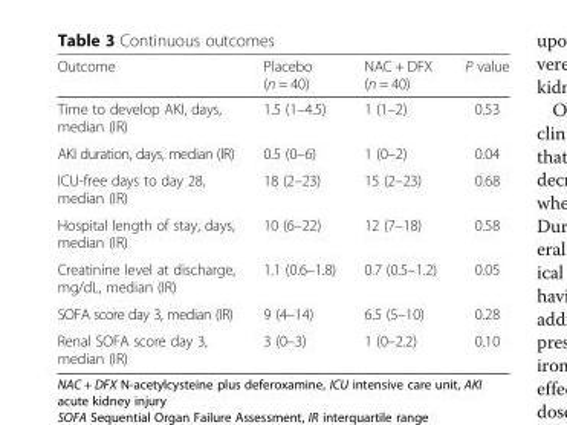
<table><thead><tr><td>Outcome</td><td>Placebo (n = 40)</td><td>NAC + DFX (n = 40)</td><td>P value</td></tr></thead><tbody><tr><td>Time to develop AKI, days, median (IR)</td><td>1.5 (1–4.5)</td><td>1 (1–2)</td><td>0.53</td></tr><tr><td>AKI duration, days, median (IR)</td><td>0.5 (0–6)</td><td>1 (0–2)</td><td>0.04</td></tr><tr><td>ICU-free days to day 28, median (IR)</td><td>18 (2–23)</td><td>15 (2–23)</td><td>0.68</td></tr><tr><td>Hospital length of stay, days, median (IR)</td><td>10 (6–22)</td><td>12 (7–18)</td><td>0.58</td></tr><tr><td>Creatinine level at discharge, mg/dL, median (IR)</td><td>1.1 (0.6–1.8)</td><td>0.7 (0.5–1.2)</td><td>0.05</td></tr><tr><td>SOFA score day 3, median (IR)</td><td>9 (4–14)</td><td>6.5 (5–10)</td><td>0.28</td></tr><tr><td>Renal SOFA score day 3, median (IR)</td><td>3 (0–3)</td><td>1 (0–2.2)</td><td>0.10</td></tr></tbody></table>